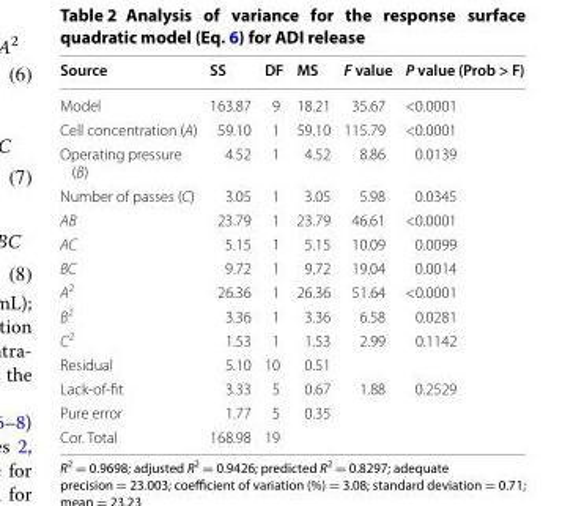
<table><thead><tr><td>Source</td><td>SS</td><td>DF</td><td>MS</td><td>F value</td><td>P value (Prob &gt; F)</td></tr></thead><tbody><tr><td>Model</td><td>163.87</td><td>9</td><td>18.21</td><td>35.67</td><td>&lt;0.0001</td></tr><tr><td>Cell concentration (A)</td><td>59.10</td><td>1</td><td>59.10</td><td>115.79</td><td>&lt;0.0001</td></tr><tr><td>Operating pressure (B)</td><td>4.52</td><td>1</td><td>4.52</td><td>8.86</td><td>0.0139</td></tr><tr><td>Number of passes (C)</td><td>3.05</td><td>1</td><td>3.05</td><td>5.98</td><td>0.0345</td></tr><tr><td>AB</td><td>23.79</td><td>1</td><td>23.79</td><td>46.61</td><td>&lt;0.0001</td></tr><tr><td>AC</td><td>5.15</td><td>1</td><td>5.15</td><td>10.09</td><td>0.0099</td></tr><tr><td>BC</td><td>9.72</td><td>1</td><td>9.72</td><td>19.04</td><td>0.0014</td></tr><tr><td>A<sup>2</sup></td><td>26.36</td><td>1</td><td>26.36</td><td>51.64</td><td>&lt;0.0001</td></tr><tr><td>B<sup>2</sup></td><td>3.36</td><td>1</td><td>3.36</td><td>6.58</td><td>0.0281</td></tr><tr><td>C<sup>2</sup></td><td>1.53</td><td>1</td><td>1.53</td><td>2.99</td><td>0.1142</td></tr><tr><td>Residual</td><td>5.10</td><td>10</td><td>0.51</td><td></td><td></td></tr><tr><td>Lack-of-fit</td><td>3.33</td><td>5</td><td>0.67</td><td>1.88</td><td>0.2529</td></tr><tr><td>Pure error</td><td>1.77</td><td>5</td><td>0.35</td><td></td><td></td></tr><tr><td>Cor. Total</td><td>168.98</td><td>19</td><td></td><td></td><td></td></tr></tbody></table>